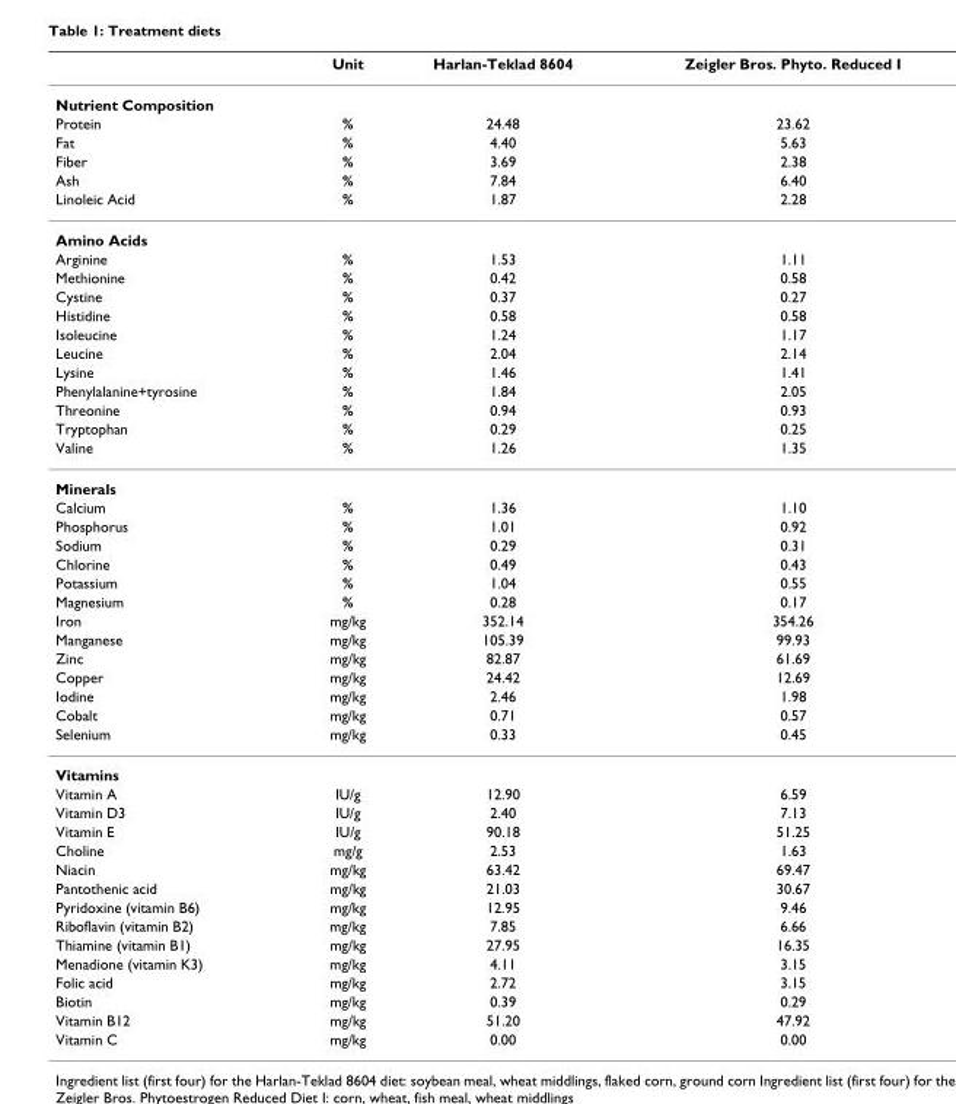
<table><thead><tr><td></td><td>Unit</td><td>Harlan-Teklad 8604</td><td>Zeigler Bros. Phyto. Reduced I</td></tr></thead><tbody><tr><td colspan="4">Nutrient Composition</td></tr><tr><td>Protein</td><td>%</td><td>24.48</td><td>23.62</td></tr><tr><td>Fat</td><td>%</td><td>4.40</td><td>5.63</td></tr><tr><td>Fiber</td><td>%</td><td>3.69</td><td>2.38</td></tr><tr><td>Ash</td><td>%</td><td>7.84</td><td>6.40</td></tr><tr><td>Linoleic Acid</td><td>%</td><td>1.87</td><td>2.28</td></tr><tr><td colspan="4">Amino Acids</td></tr><tr><td>Arginine</td><td>%</td><td>1.53</td><td>1.11</td></tr><tr><td>Methionine</td><td>%</td><td>0.42</td><td>0.58</td></tr><tr><td>Cystine</td><td>%</td><td>0.37</td><td>0.27</td></tr><tr><td>Histidine</td><td>%</td><td>0.58</td><td>0.58</td></tr><tr><td>Isoleucine</td><td>%</td><td>1.24</td><td>1.17</td></tr><tr><td>Leucine</td><td>%</td><td>2.04</td><td>2.14</td></tr><tr><td>Lysine</td><td>%</td><td>1.46</td><td>1.41</td></tr><tr><td>Phenylalanine+tyrosine</td><td>%</td><td>1.84</td><td>2.05</td></tr><tr><td>Threonine</td><td>%</td><td>0.94</td><td>0.93</td></tr><tr><td>Tryptophan</td><td>%</td><td>0.29</td><td>0.25</td></tr><tr><td>Valine</td><td>%</td><td>1.26</td><td>1.35</td></tr><tr><td colspan="4">Minerals</td></tr><tr><td>Calcium</td><td>%</td><td>1.36</td><td>1.10</td></tr><tr><td>Phosphorus</td><td>%</td><td>1.01</td><td>0.92</td></tr><tr><td>Sodium</td><td>%</td><td>0.29</td><td>0.31</td></tr><tr><td>Chlorine</td><td>%</td><td>0.49</td><td>0.43</td></tr><tr><td>Potassium</td><td>%</td><td>1.04</td><td>0.55</td></tr><tr><td>Magnesium</td><td>%</td><td>0.28</td><td>0.17</td></tr><tr><td>Iron</td><td>mg/kg</td><td>352.14</td><td>354.26</td></tr><tr><td>Manganese</td><td>mg/kg</td><td>105.39</td><td>99.93</td></tr><tr><td>Zinc</td><td>mg/kg</td><td>82.87</td><td>61.69</td></tr><tr><td>Copper</td><td>mg/kg</td><td>24.42</td><td>12.69</td></tr><tr><td>Iodine</td><td>mg/kg</td><td>2.46</td><td>1.98</td></tr><tr><td>Cobalt</td><td>mg/kg</td><td>0.71</td><td>0.57</td></tr><tr><td>Selenium</td><td>mg/kg</td><td>0.33</td><td>0.45</td></tr><tr><td colspan="4">Vitamins</td></tr><tr><td>Vitamin A</td><td>IU/g</td><td>12.90</td><td>6.59</td></tr><tr><td>Vitamin D3</td><td>IU/g</td><td>2.40</td><td>7.13</td></tr><tr><td>Vitamin E</td><td>IU/g</td><td>90.18</td><td>51.25</td></tr><tr><td>Choline</td><td>mg/g</td><td>2.53</td><td>1.63</td></tr><tr><td>Niacin</td><td>mg/kg</td><td>63.42</td><td>69.47</td></tr><tr><td>Pantothenic acid</td><td>mg/kg</td><td>21.03</td><td>30.67</td></tr><tr><td>Pyridoxine (vitamin B6)</td><td>mg/kg</td><td>12.95</td><td>9.46</td></tr><tr><td>Riboflavin (vitamin B2)</td><td>mg/kg</td><td>7.85</td><td>6.66</td></tr><tr><td>Thiamine (vitamin B1)</td><td>mg/kg</td><td>27.95</td><td>16.35</td></tr><tr><td>Menadione (vitamin K3)</td><td>mg/kg</td><td>4.11</td><td>3.15</td></tr><tr><td>Folic acid</td><td>mg/kg</td><td>2.72</td><td>3.15</td></tr><tr><td>Biotin</td><td>mg/kg</td><td>0.39</td><td>0.29</td></tr><tr><td>Vitamin B12</td><td>mg/kg</td><td>51.20</td><td>47.92</td></tr><tr><td>Vitamin C</td><td>mg/kg</td><td>0.00</td><td>0.00</td></tr></tbody></table>